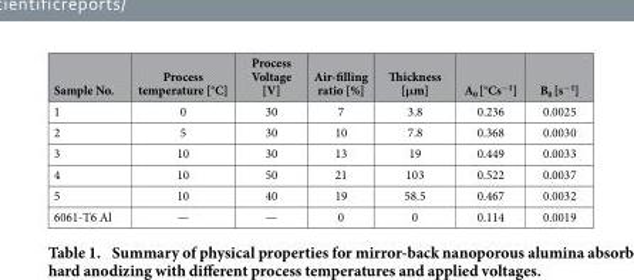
<table><thead><tr><td>Sample No.</td><td>Process temperature [°C]</td><td>Process Voltage [V]</td><td>Air-filling ratio [%]</td><td>Thickness [μm]</td><td>A<sub>0</sub> [°Cs<sup>−1</sup>]</td><td>B<sub>0</sub> [s<sup>−1</sup>]</td></tr></thead><tbody><tr><td>1</td><td>0</td><td>30</td><td>7</td><td>3.8</td><td>0.236</td><td>0.0025</td></tr><tr><td>2</td><td>5</td><td>30</td><td>10</td><td>7.8</td><td>0.368</td><td>0.0030</td></tr><tr><td>3</td><td>10</td><td>30</td><td>13</td><td>19</td><td>0.449</td><td>0.0033</td></tr><tr><td>4</td><td>10</td><td>50</td><td>21</td><td>103</td><td>0.522</td><td>0.0037</td></tr><tr><td>5</td><td>10</td><td>40</td><td>19</td><td>58.5</td><td>0.467</td><td>0.0032</td></tr><tr><td>6061-T6 Al</td><td>—</td><td>—</td><td>0</td><td>0</td><td>0.114</td><td>0.0019</td></tr></tbody></table>